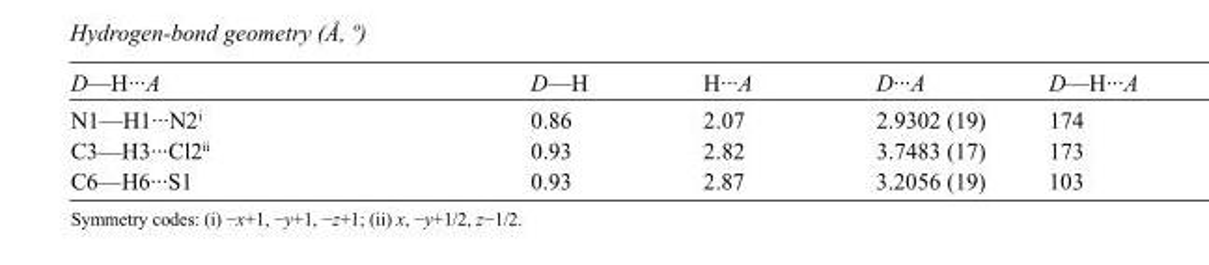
<table><tbody><tr><td>D—H···A</td><td>D—H</td><td>H···A</td><td>D···A</td><td>D—H···A</td></tr><tr><td>N1—H1···N2<sup>i</sup></td><td>0.86</td><td>2.07</td><td>2.9302 (19)</td><td>174</td></tr><tr><td>C3—H3···Cl2<sup>ii</sup></td><td>0.93</td><td>2.82</td><td>3.7483 (17)</td><td>173</td></tr><tr><td>C6—H6···S1</td><td>0.93</td><td>2.87</td><td>3.2056 (19)</td><td>103</td></tr></tbody></table>